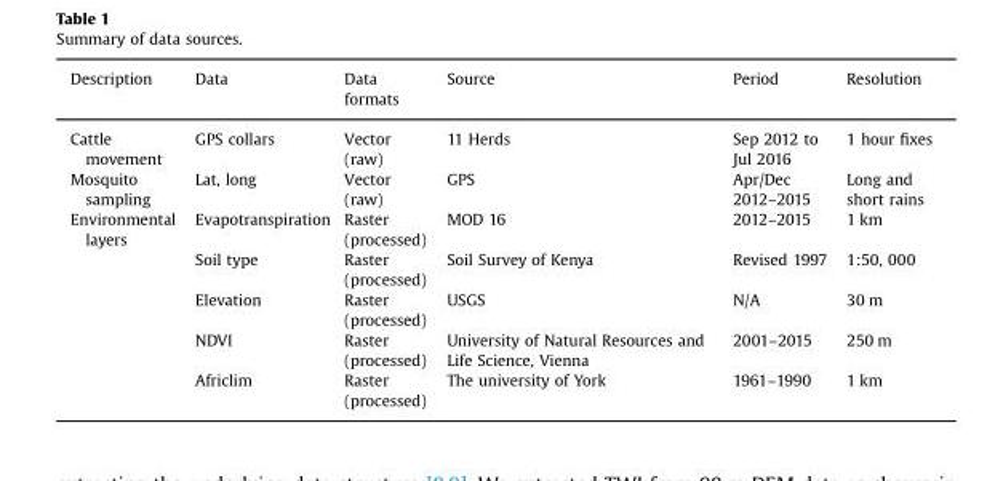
<table><thead><tr><td>Description</td><td>Data</td><td>Data formats</td><td>Source</td><td>Period</td><td>Resolution</td></tr></thead><tbody><tr><td>Cattle movement</td><td>GPS collars</td><td>Vector (raw)</td><td>11 Herds</td><td>Sep 2012 to Jul 2016</td><td>1 hour fixes</td></tr><tr><td>Mosquito sampling</td><td>Lat, long</td><td>Vector (raw)</td><td>GPS</td><td>Apr/Dec 2012–2015</td><td>Long and short rains</td></tr><tr><td rowspan="5">Environmental layers</td><td>Evapotranspiration</td><td>Raster (processed)</td><td>MOD 16</td><td>2012–2015</td><td>1 km</td></tr><tr><td>Soil type</td><td>Raster (processed)</td><td>Soil Survey of Kenya</td><td>Revised 1997</td><td>1:50, 000</td></tr><tr><td>Elevation</td><td>Raster (processed)</td><td>USGS</td><td>N/A</td><td>30 m</td></tr><tr><td>NDVI</td><td>Raster (processed)</td><td>University of Natural Resources and Life Science, Vienna</td><td>2001–2015</td><td>250 m</td></tr><tr><td>Africlim</td><td>Raster (processed)</td><td>The university of York</td><td>1961–1990</td><td>1 km</td></tr></tbody></table>